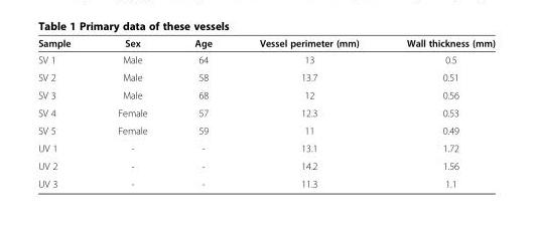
<table><thead><tr><td>Sample</td><td>Sex</td><td>Age</td><td>Vessel perimeter (mm)</td><td>Wall thickness (mm)</td></tr></thead><tbody><tr><td>SV 1</td><td>Male</td><td>64</td><td>13</td><td>0.5</td></tr><tr><td>SV 2</td><td>Male</td><td>58</td><td>13.7</td><td>0.51</td></tr><tr><td>SV 3</td><td>Male</td><td>68</td><td>12</td><td>0.56</td></tr><tr><td>SV 4</td><td>Female</td><td>57</td><td>12.3</td><td>0.53</td></tr><tr><td>SV 5</td><td>Female</td><td>59</td><td>11</td><td>0.49</td></tr><tr><td>UV 1</td><td>-</td><td>-</td><td>13.1</td><td>1.72</td></tr><tr><td>UV 2</td><td>-</td><td>-</td><td>14.2</td><td>1.56</td></tr><tr><td>UV 3</td><td>-</td><td>-</td><td>11.3</td><td>1.1</td></tr></tbody></table>